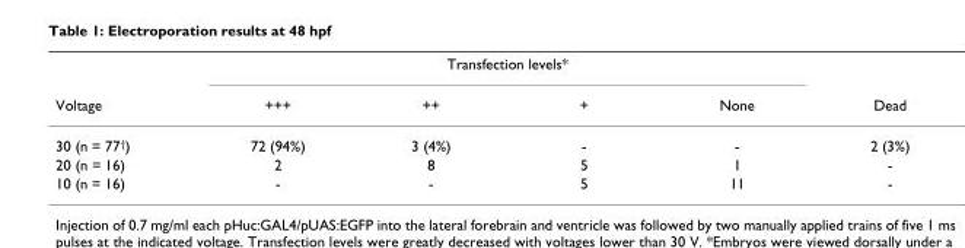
<table><thead><tr><td rowspan="2">Voltage</td><td colspan="4">Transfection levels*</td><td rowspan="2">Dead</td></tr><tr><td>+++</td><td>++</td><td>+</td><td>None</td></tr></thead><tbody><tr><td>30 (n = 77<sup>†</sup>)</td><td>72 (94%)</td><td>3 (4%)</td><td>-</td><td>-</td><td>2 (3%)</td></tr><tr><td>20 (n = 16)</td><td>2</td><td>8</td><td>5</td><td>1</td><td>-</td></tr><tr><td>10 (n = 16)</td><td>-</td><td>-</td><td>5</td><td>11</td><td>-</td></tr></tbody></table>